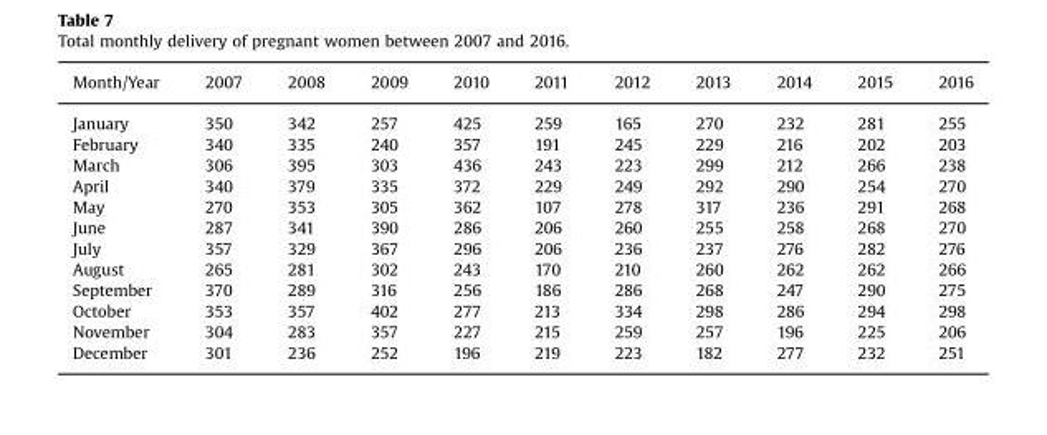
<table><thead><tr><td>Month/Year</td><td>2007</td><td>2008</td><td>2009</td><td>2010</td><td>2011</td><td>2012</td><td>2013</td><td>2014</td><td>2015</td><td>2016</td></tr></thead><tbody><tr><td>January</td><td>350</td><td>342</td><td>257</td><td>425</td><td>259</td><td>165</td><td>270</td><td>232</td><td>281</td><td>255</td></tr><tr><td>February</td><td>340</td><td>335</td><td>240</td><td>357</td><td>191</td><td>245</td><td>229</td><td>216</td><td>202</td><td>203</td></tr><tr><td>March</td><td>306</td><td>395</td><td>303</td><td>436</td><td>243</td><td>223</td><td>299</td><td>212</td><td>266</td><td>238</td></tr><tr><td>April</td><td>340</td><td>379</td><td>335</td><td>372</td><td>229</td><td>249</td><td>292</td><td>290</td><td>254</td><td>270</td></tr><tr><td>May</td><td>270</td><td>353</td><td>305</td><td>362</td><td>107</td><td>278</td><td>317</td><td>236</td><td>291</td><td>268</td></tr><tr><td>June</td><td>287</td><td>341</td><td>390</td><td>286</td><td>206</td><td>260</td><td>255</td><td>258</td><td>268</td><td>270</td></tr><tr><td>July</td><td>357</td><td>329</td><td>367</td><td>296</td><td>206</td><td>236</td><td>237</td><td>276</td><td>282</td><td>276</td></tr><tr><td>August</td><td>265</td><td>281</td><td>302</td><td>243</td><td>170</td><td>210</td><td>260</td><td>262</td><td>262</td><td>266</td></tr><tr><td>September</td><td>370</td><td>289</td><td>316</td><td>256</td><td>186</td><td>286</td><td>268</td><td>247</td><td>290</td><td>275</td></tr><tr><td>October</td><td>353</td><td>357</td><td>402</td><td>277</td><td>213</td><td>334</td><td>298</td><td>286</td><td>294</td><td>298</td></tr><tr><td>November</td><td>304</td><td>283</td><td>357</td><td>227</td><td>215</td><td>259</td><td>257</td><td>196</td><td>225</td><td>206</td></tr><tr><td>December</td><td>301</td><td>236</td><td>252</td><td>196</td><td>219</td><td>223</td><td>182</td><td>277</td><td>232</td><td>251</td></tr></tbody></table>